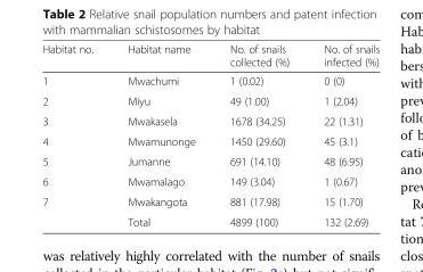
<table><thead><tr><td>Habitat no.</td><td>Habitat name</td><td>No. of snails collected (%)</td><td>No. of snails infected (%)</td></tr></thead><tbody><tr><td>1</td><td>Mwachumi</td><td>1 (0.02)</td><td>0 (0)</td></tr><tr><td>2</td><td>Miyu</td><td>49 (1.00)</td><td>1 (2.04)</td></tr><tr><td>3</td><td>Mwakasela</td><td>1678 (34.25)</td><td>22 (1.31)</td></tr><tr><td>4</td><td>Mwamunonge</td><td>1450 (29.60)</td><td>45 (3.1)</td></tr><tr><td>5</td><td>Jumanne</td><td>691 (14.10)</td><td>48 (6.95)</td></tr><tr><td>6</td><td>Mwamalago</td><td>149 (3.04)</td><td>1 (0.67)</td></tr><tr><td rowspan="2">7</td><td>Mwakangota</td><td>881 (17.98)</td><td>15 (1.70)</td></tr><tr><td>Total</td><td>4899 (100)</td><td>132 (2.69)</td></tr></tbody></table>